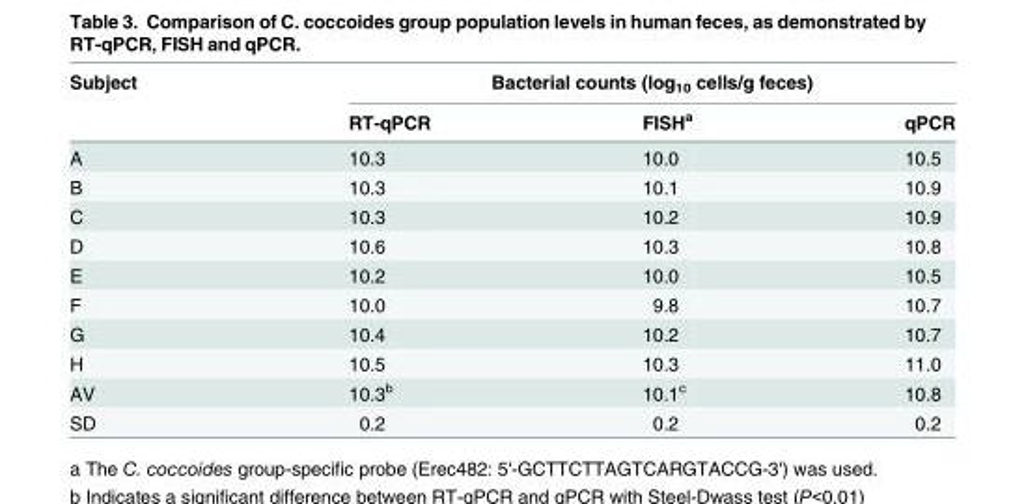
<table><thead><tr><td rowspan="2">Subject</td><td colspan="3">Bacterial counts (log<sub>10</sub> cells/g feces)</td></tr><tr><td>RT-qPCR</td><td>FISH<sup>a</sup></td><td>qPCR</td></tr></thead><tbody><tr><td>A</td><td>10.3</td><td>10.0</td><td>10.5</td></tr><tr><td>B</td><td>10.3</td><td>10.1</td><td>10.9</td></tr><tr><td>C</td><td>10.3</td><td>10.2</td><td>10.9</td></tr><tr><td>D</td><td>10.6</td><td>10.3</td><td>10.8</td></tr><tr><td>E</td><td>10.2</td><td>10.0</td><td>10.5</td></tr><tr><td>F</td><td>10.0</td><td>9.8</td><td>10.7</td></tr><tr><td>G</td><td>10.4</td><td>10.2</td><td>10.7</td></tr><tr><td>H</td><td>10.5</td><td>10.3</td><td>11.0</td></tr><tr><td>AV</td><td>10.3<sup>b</sup></td><td>10.1<sup>c</sup></td><td>10.8</td></tr><tr><td>SD</td><td>0.2</td><td>0.2</td><td>0.2</td></tr></tbody></table>